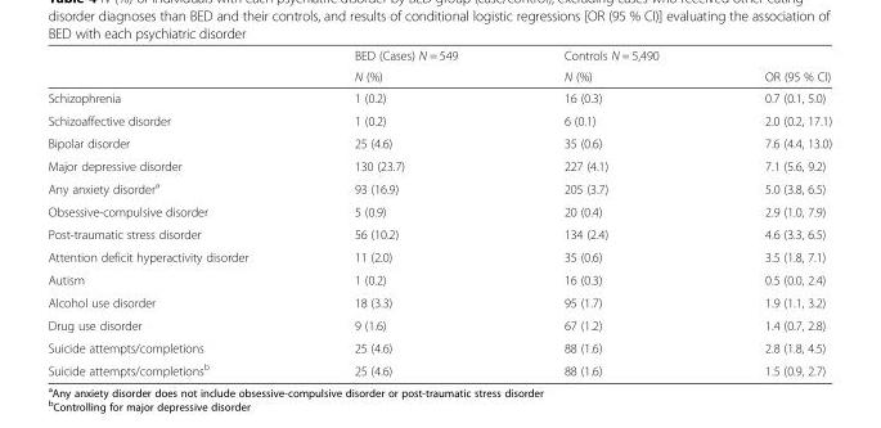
<table><thead><tr><td rowspan="2"></td><td rowspan="2">BED (Cases) N = 549 N (%)</td><td rowspan="2">Controls N = 5,490 N (%)</td><td rowspan="2">OR (95 % CI)</td></tr><tr></tr></thead><tbody><tr><td>Schizophrenia</td><td>1 (0.2)</td><td>16 (0.3)</td><td>0.7 (0.1, 5.0)</td></tr><tr><td>Schizoaffective disorder</td><td>1 (0.2)</td><td>6 (0.1)</td><td>2.0 (0.2, 17.1)</td></tr><tr><td>Bipolar disorder</td><td>25 (4.6)</td><td>35 (0.6)</td><td>7.6 (4.4, 13.0)</td></tr><tr><td>Major depressive disorder</td><td>130 (23.7)</td><td>227 (4.1)</td><td>7.1 (5.6, 9.2)</td></tr><tr><td>Any anxiety disorder<sup>a</sup></td><td>93 (16.9)</td><td>205 (3.7)</td><td>5.0 (3.8, 6.5)</td></tr><tr><td>Obsessive-compulsive disorder</td><td>5 (0.9)</td><td>20 (0.4)</td><td>2.9 (1.0, 7.9)</td></tr><tr><td>Post-traumatic stress disorder</td><td>56 (10.2)</td><td>134 (2.4)</td><td>4.6 (3.3, 6.5)</td></tr><tr><td>Attention deficit hyperactivity disorder</td><td>11 (2.0)</td><td>35 (0.6)</td><td>3.5 (1.8, 7.1)</td></tr><tr><td>Autism</td><td>1 (0.2)</td><td>16 (0.3)</td><td>0.5 (0.0, 2.4)</td></tr><tr><td>Alcohol use disorder</td><td>18 (3.3)</td><td>95 (1.7)</td><td>1.9 (1.1, 3.2)</td></tr><tr><td>Drug use disorder</td><td>9 (1.6)</td><td>67 (1.2)</td><td>1.4 (0.7, 2.8)</td></tr><tr><td>Suicide attempts/completions</td><td>25 (4.6)</td><td>88 (1.6)</td><td>2.8 (1.8, 4.5)</td></tr><tr><td>Suicide attempts/completions<sup>b</sup></td><td>25 (4.6)</td><td>88 (1.6)</td><td>1.5 (0.9, 2.7)</td></tr></tbody></table>